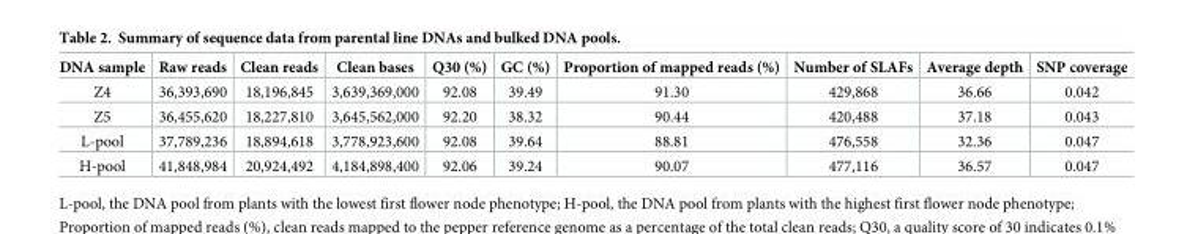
<table><thead><tr><td>DNA sample</td><td>Raw reads</td><td>Clean reads</td><td>Clean bases</td><td>Q30 (%)</td><td>GC (%)</td><td>Proportion of mapped reads (%)</td><td>Number of SLAFs</td><td>Average depth</td><td>SNP coverage</td></tr></thead><tbody><tr><td>Z4</td><td>36,393,690</td><td>18,196,845</td><td>3,639,369,000</td><td>92.08</td><td>39.49</td><td>91.30</td><td>429,868</td><td>36.66</td><td>0.042</td></tr><tr><td>Z5</td><td>36,455,620</td><td>18,227,810</td><td>3,645,562,000</td><td>92.20</td><td>38.32</td><td>90.44</td><td>420,488</td><td>37.18</td><td>0.043</td></tr><tr><td>L-pool</td><td>37,789,236</td><td>18,894,618</td><td>3,778,923,600</td><td>92.08</td><td>39.64</td><td>88.81</td><td>476,558</td><td>32.36</td><td>0.047</td></tr><tr><td>H-pool</td><td>41,848,984</td><td>20,924,492</td><td>4,184,898,400</td><td>92.06</td><td>39.24</td><td>90.07</td><td>477,116</td><td>36.57</td><td>0.047</td></tr></tbody></table>